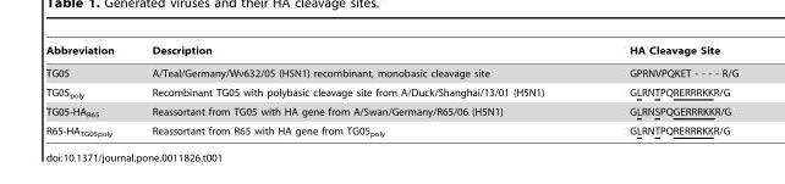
<table><thead><tr><td>Abbreviation</td><td>Description</td><td>HA Cleavage Site</td></tr></thead><tbody><tr><td>TG05</td><td>A/Teal/Germany/Wv632/05 (H5N1) recombinant, monobasic cleavage site</td><td>GPRNVPQKET - - - - R/G</td></tr><tr><td>TG05<sub>poly</sub></td><td>Recombinant TG05 with polybasic cleavage site from A/Duck/Shanghai/13/01 (H5N1)</td><td>GLRNTPQRERRRKKR/G</td></tr><tr><td>TG05-HA<sub>R65</sub></td><td>Reassortant from TG05 with HA gene from A/Swan/Germany/R65/06 (H5N1)</td><td>GLRNSPQGERRRKKR/G</td></tr><tr><td>R65-HA<sub>TG05poly</sub></td><td>Reassortant from R65 with HA gene from TG05<sub>poly</sub></td><td>GLRNTPQRERRRKKR/G</td></tr></tbody></table>